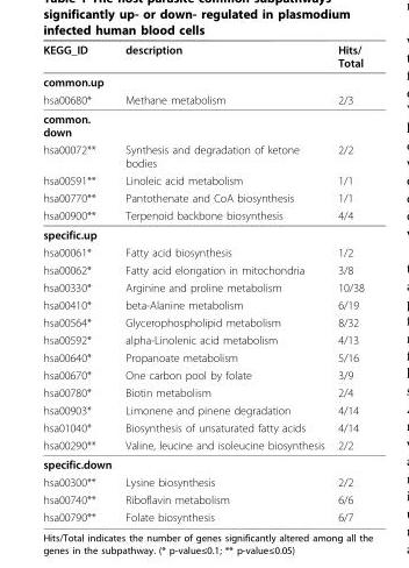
<table><thead><tr><td>KEGG_ID</td><td>description</td><td>Hits/ Total</td></tr></thead><tbody><tr><td colspan="3">common.up</td></tr><tr><td>hsa00680*</td><td>Methane metabolism</td><td>2/3</td></tr><tr><td colspan="3">common. down</td></tr><tr><td>hsa00072**</td><td>Synthesis and degradation of ketone bodies</td><td>2/2</td></tr><tr><td>hsa00591**</td><td>Linoleic acid metabolism</td><td>1/1</td></tr><tr><td>hsa00770**</td><td>Pantothenate and CoA biosynthesis</td><td>1/1</td></tr><tr><td>hsa00900**</td><td>Terpenoid backbone biosynthesis</td><td>4/4</td></tr><tr><td colspan="3">specific.up</td></tr><tr><td>hsa00061*</td><td>Fatty acid biosynthesis</td><td>1/2</td></tr><tr><td>hsa00062*</td><td>Fatty acid elongation in mitochondria</td><td>3/8</td></tr><tr><td>hsa00330*</td><td>Arginine and proline metabolism</td><td>10/38</td></tr><tr><td>hsa00410*</td><td>beta-Alanine metabolism</td><td>6/19</td></tr><tr><td>hsa00564*</td><td>Glycerophospholipid metabolism</td><td>8/32</td></tr><tr><td>hsa00592*</td><td>alpha-Linolenic acid metabolism</td><td>4/13</td></tr><tr><td>hsa00640*</td><td>Propanoate metabolism</td><td>5/16</td></tr><tr><td>hsa00670*</td><td>One carbon pool by folate</td><td>3/9</td></tr><tr><td>hsa00780*</td><td>Biotin metabolism</td><td>2/4</td></tr><tr><td>hsa00903*</td><td>Limonene and pinene degradation</td><td>4/14</td></tr><tr><td>hsa01040*</td><td>Biosynthesis of unsaturated fatty acids</td><td>4/14</td></tr><tr><td>hsa00290**</td><td>Valine, leucine and isoleucine biosynthesis</td><td>2/2</td></tr><tr><td colspan="3">specific.down</td></tr><tr><td>hsa00300**</td><td>Lysine biosynthesis</td><td>2/2</td></tr><tr><td>hsa00740**</td><td>Riboflavin metabolism</td><td>6/6</td></tr><tr><td>hsa00790**</td><td>Folate biosynthesis</td><td>6/7</td></tr></tbody></table>